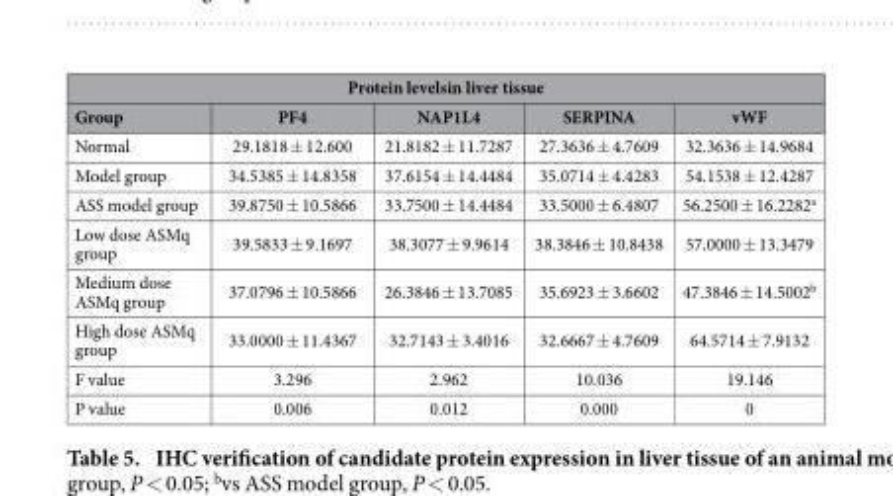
<table><thead><tr><td colspan="5">Protein levelsin liver tissue</td></tr><tr><td>Group</td><td>PF4</td><td>NAP1L4</td><td>SERPINA</td><td>vWF</td></tr></thead><tbody><tr><td>Normal</td><td>29.1818 ± 12.600</td><td>21.8182 ± 11.7287</td><td>27.3636 ± 4.7609</td><td>32.3636 ± 14.9684</td></tr><tr><td>Model group</td><td>34.5385 ± 14.8358</td><td>37.6154 ± 14.4484</td><td>35.0714 ± 4.4283</td><td>54.1538 ± 12.4287</td></tr><tr><td>ASS model group</td><td>39.8750 ± 10.5866</td><td>33.7500 ± 14.4484</td><td>33.5000 ± 6.4807</td><td>56.2500 ± 16.2282<sup>a</sup></td></tr><tr><td>Low dose ASMq group</td><td>39.5833 ± 9.1697</td><td>38.3077 ± 9.9614</td><td>38.3846 ± 10.8438</td><td>57.0000 ± 13.3479</td></tr><tr><td>Medium dose ASMq group</td><td>37.0796 ± 10.5866</td><td>26.3846 ± 13.7085</td><td>35.6923 ± 3.6602</td><td>47.3846 ± 14.5002<sup>b</sup></td></tr><tr><td>High dose ASMq group</td><td>33.0000 ± 11.4367</td><td>32.7143 ± 3.4016</td><td>32.6667 ± 4.7609</td><td>64.5714 ± 7.9132</td></tr><tr><td>F value</td><td>3.296</td><td>2.962</td><td>10.036</td><td>19.146</td></tr><tr><td>P value</td><td>0.006</td><td>0.012</td><td>0.000</td><td>0</td></tr></tbody></table>